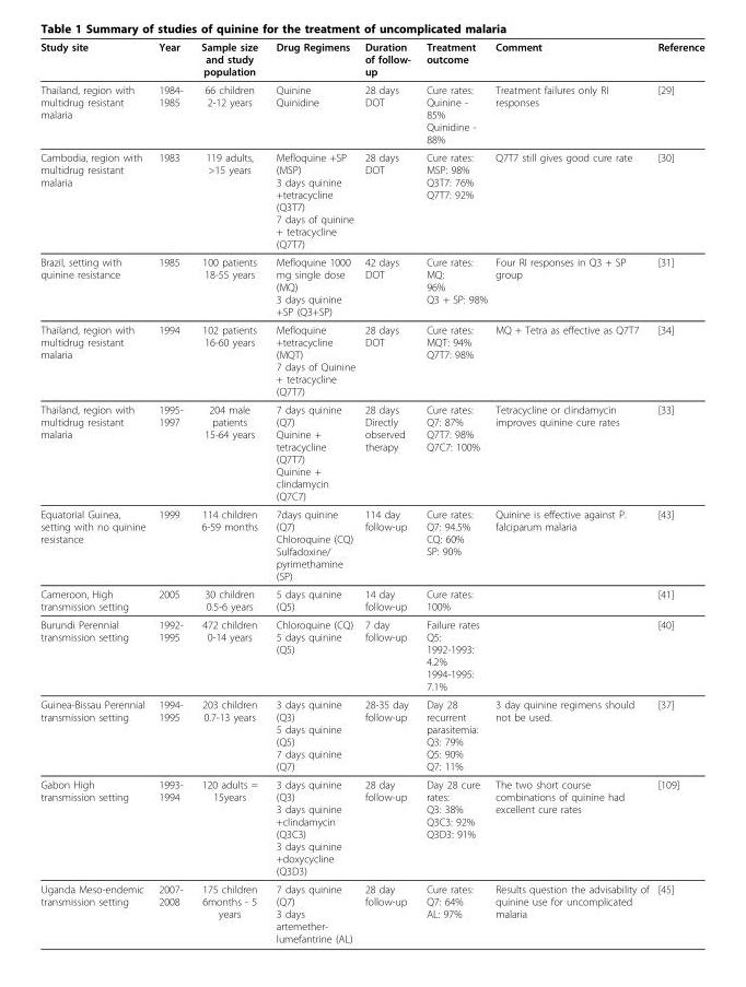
<table><thead><tr><td>Study site</td><td>Year</td><td>Sample size and study population</td><td>Drug Regimens</td><td>Duration of follow- up</td><td>Treatment outcome</td><td>Comment</td><td>Reference</td></tr></thead><tbody><tr><td>Thailand, region with multidrug resistant malaria</td><td>1984- 1985</td><td>66 children 2-12 years</td><td>Quinine Quinidine</td><td>28 days DOT</td><td>Cure rates: Quinine - 85% Quinidine - 88%</td><td>Treatment failures only RI responses</td><td>[29]</td></tr><tr><td>Cambodia, region with multidrug resistant malaria</td><td>1983</td><td>119 adults, &gt;15 years</td><td>Mefloquine +SP (MSP) 3 days quinine +tetracycline (Q3T7) 7 days of quinine + tetracycline (Q7T7)</td><td>28 days DOT</td><td>Cure rates: MSP: 98% Q3T7: 76% Q7T7: 92%</td><td>Q7T7 still gives good cure rate</td><td>[30]</td></tr><tr><td>Brazil, setting with quinine resistance</td><td>1985</td><td>100 patients 18-55 years</td><td>Mefloquine 1000 mg single dose (MQ) 3 days quinine +SP (Q3+SP)</td><td>42 days DOT</td><td>Cure rates: MQ: 96% Q3 + SP: 98%</td><td>Four RI responses in Q3 + SP group</td><td>[31]</td></tr><tr><td>Thailand, region with multidrug resistant malaria</td><td>1994</td><td>102 patients 16-60 years</td><td>Mefloquine +tetracycline (MQT) 7 days of Quinine + tetracycline (Q7T7)</td><td>28 days DOT</td><td>Cure rates: MQT: 94% Q7T7: 98%</td><td>MQ + Tetra as effective as Q7T7</td><td>[34]</td></tr><tr><td>Thailand, region with multidrug resistant malaria</td><td>1995- 1997</td><td>204 male patients 15-64 years</td><td>7 days quinine (Q7) Quinine + tetracycline (Q7T7) Quinine + clindamycin (Q7C7)</td><td>28 days Directly observed therapy</td><td>Cure rates: Q7: 87% Q7T7: 98% Q7C7: 100%</td><td>Tetracycline or clindamycin improves quinine cure rates</td><td>[33]</td></tr><tr><td>Equatorial Guinea, setting with no quinine resistance</td><td>1999</td><td>114 children 6-59 months</td><td>7days quinine (Q7) Chloroquine (CQ) Sulfadoxine/ pyrimethamine (SP)</td><td>114 day follow-up</td><td>Cure rates: Q7: 94.5% CQ: 60% SP: 90%</td><td>Quinine is effective against P. falciparum malaria</td><td>[43]</td></tr><tr><td>Cameroon, High transmission setting</td><td>2005</td><td>30 children 0.5-6 years</td><td>5 days quinine (Q5)</td><td>14 day follow-up</td><td>Cure rates: 100%</td><td></td><td>[41]</td></tr><tr><td>Burundi Perennial transmission setting</td><td>1992- 1995</td><td>472 children 0-14 years</td><td>Chloroquine (CQ) 5 days quinine (Q5)</td><td>7 day follow-up</td><td>Failure rates Q5: 1992-1993: 4.2% 1994-1995: 7.1%</td><td></td><td>[40]</td></tr><tr><td>Guinea-Bissau Perennial transmission setting</td><td>1994- 1995</td><td>203 children 0.7-13 years</td><td>3 days quinine (Q3) 5 days quinine (Q5) 7 days quinine (Q7)</td><td>28-35 day follow-up</td><td>Day 28 recurrent parasitemia: Q3: 79% Q5: 90% Q7: 11%</td><td>3 day quinine regimens should not be used.</td><td>[37]</td></tr><tr><td>Gabon High transmission setting</td><td>1993- 1994</td><td>120 adults = 15years</td><td>3 days quinine (Q3) 3 days quinine +clindamycin (Q3C3) 3 days quinine +doxycycline (Q3D3)</td><td>28 day follow-up</td><td>Day 28 cure rates: Q3: 38% Q3C3: 92% Q3D3: 91%</td><td>The two short course combinations of quinine had excellent cure rates</td><td>[109]</td></tr><tr><td>Uganda Meso-endemic transmission setting</td><td>2007- 2008</td><td>175 children 6months - 5 years</td><td>7 days quinine (Q7) 3 days artemether- lumefantrine (AL)</td><td>28 day follow-up</td><td>Cure rates: Q7: 64% AL: 97%</td><td>Results question the advisability of quinine use for uncomplicated malaria</td><td>[45]</td></tr></tbody></table>